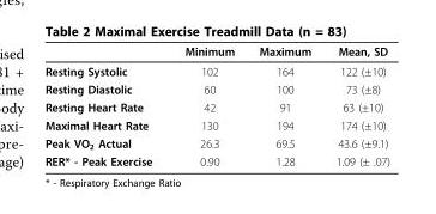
<table><thead><tr><td></td><td>Minimum</td><td>Maximum</td><td>Mean, SD</td></tr></thead><tbody><tr><td>Resting Systolic</td><td>102</td><td>164</td><td>122 (±10)</td></tr><tr><td>Resting Diastolic</td><td>60</td><td>100</td><td>73 (±8)</td></tr><tr><td>Resting Heart Rate</td><td>42</td><td>91</td><td>63 (±10)</td></tr><tr><td>Maximal Heart Rate</td><td>130</td><td>194</td><td>174 (±10)</td></tr><tr><td>Peak VO<sub>2</sub> Actual</td><td>26.3</td><td>69.5</td><td>43.6 (±9.1)</td></tr><tr><td>RER* - Peak Exercise</td><td>0.90</td><td>1.28</td><td>1.09 (± .07)</td></tr></tbody></table>